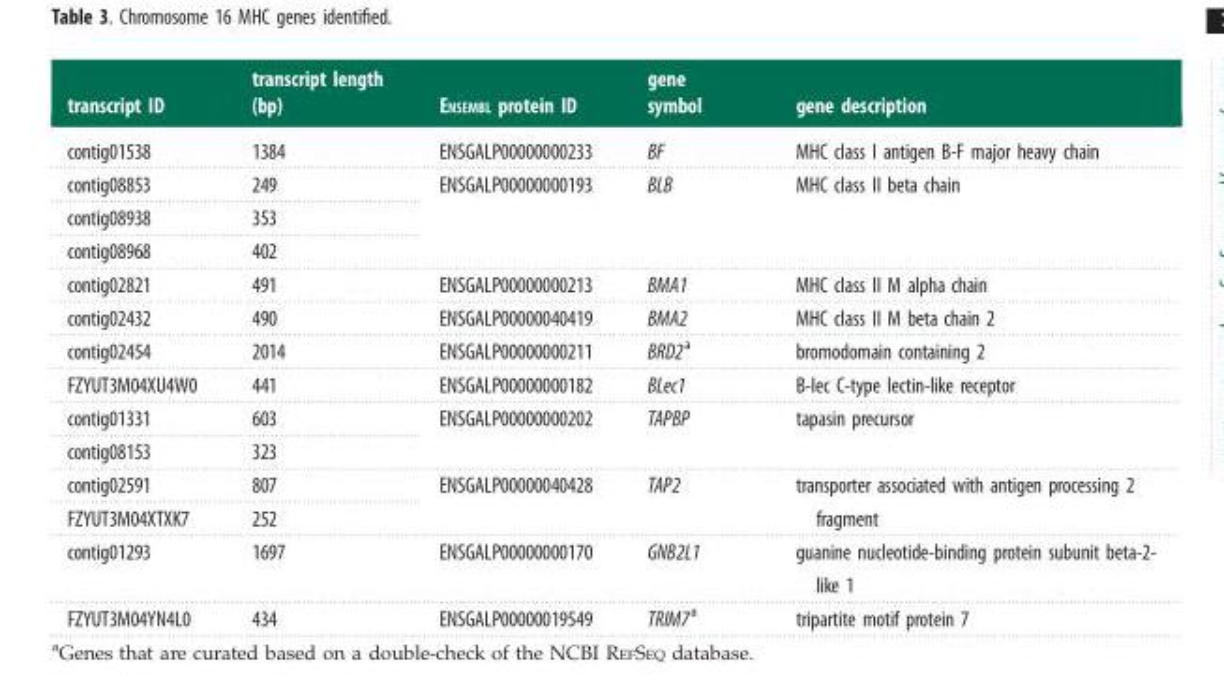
<table><thead><tr><td>transcript ID</td><td>transcript length (bp)</td><td>ENSEMBL protein ID</td><td>gene symbol</td><td>gene description</td></tr></thead><tbody><tr><td>contig01538</td><td>1384</td><td>ENSGALP00000000233</td><td>BF</td><td>MHC class I antigen B-F major heavy chain</td></tr><tr><td>contig08853</td><td>249</td><td rowspan="3">ENSGALP00000000193</td><td rowspan="3">BLB</td><td rowspan="3">MHC class II beta chain</td></tr><tr><td>contig08938</td><td>353</td></tr><tr><td>contig08968</td><td>402</td></tr><tr><td>contig02821</td><td>491</td><td>ENSGALP00000000213</td><td>BMA1</td><td>MHC class II M alpha chain</td></tr><tr><td>contig02432</td><td>490</td><td>ENSGALP00000040419</td><td>BMA2</td><td>MHC class II M beta chain 2</td></tr><tr><td>contig02454</td><td>2014</td><td>ENSGALP00000000211</td><td>BRD2<sup>a</sup></td><td>bromodomain containing 2</td></tr><tr><td>FZYUT3M04XU4W0</td><td>441</td><td>ENSGALP00000000182</td><td>BLec1</td><td>B-lec C-type lectin-like receptor</td></tr><tr><td>contig01331</td><td>603</td><td rowspan="2">ENSGALP00000000202</td><td rowspan="2">TAPBP</td><td rowspan="2">tapasin precursor</td></tr><tr><td>contig08153</td><td>323</td></tr><tr><td>contig02591</td><td>807</td><td rowspan="2">ENSGALP00000040428</td><td rowspan="2">TAP2</td><td rowspan="2">transporter associated with antigen processing 2 fragment</td></tr><tr><td>FZYUT3M04XTXK7</td><td>252</td></tr><tr><td>contig01293</td><td>1697</td><td>ENSGALP00000000170</td><td>GNB2L1</td><td>guanine nucleotide-binding protein subunit beta-2- like 1</td></tr><tr><td>FZYUT3M04YN4L0</td><td>434</td><td>ENSGALP00000019549</td><td>TRIM7<sup>a</sup></td><td>tripartite motif protein 7</td></tr></tbody></table>